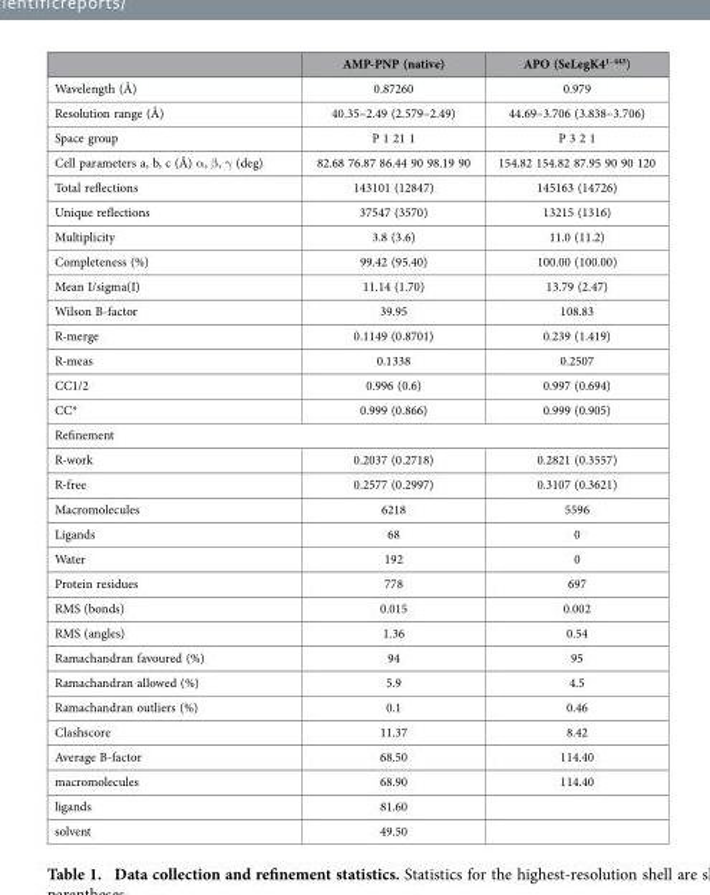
<table><thead><tr><td></td><td>AMP-PNP (native)</td><td>APO (SeLegK4<sup>1–445</sup>)</td></tr></thead><tbody><tr><td>Wavelength (Å)</td><td>0.87260</td><td>0.979</td></tr><tr><td>Resolution range (Å)</td><td>40.35–2.49 (2.579–2.49)</td><td>44.69–3.706 (3.838–3.706)</td></tr><tr><td>Space group</td><td>P 1 21 1</td><td>P 3 2 1</td></tr><tr><td>Cell parameters a, b, c (Å) α , β , γ (deg)</td><td>82.68 76.87 86.44 90 98.19 90</td><td>154.82 154.82 87.95 90 90 120</td></tr><tr><td>Total reflections</td><td>143101 (12847)</td><td>145163 (14726)</td></tr><tr><td>Unique reflections</td><td>37547 (3570)</td><td>13215 (1316)</td></tr><tr><td>Multiplicity</td><td>3.8 (3.6)</td><td>11.0 (11.2)</td></tr><tr><td>Completeness (%)</td><td>99.42 (95.40)</td><td>100.00 (100.00)</td></tr><tr><td>Mean I/sigma(I)</td><td>11.14 (1.70)</td><td>13.79 (2.47)</td></tr><tr><td>Wilson B-factor</td><td>39.95</td><td>108.83</td></tr><tr><td>R-merge</td><td>0.1149 (0.8701)</td><td>0.239 (1.419)</td></tr><tr><td>R-meas</td><td>0.1338</td><td>0.2507</td></tr><tr><td>CC1/2</td><td>0.996 (0.6)</td><td>0.997 (0.694)</td></tr><tr><td>CC*</td><td>0.999 (0.866)</td><td>0.999 (0.905)</td></tr><tr><td colspan="3">Refinement</td></tr><tr><td>R-work</td><td>0.2037 (0.2718)</td><td>0.2821 (0.3557)</td></tr><tr><td>R-free</td><td>0.2577 (0.2997)</td><td>0.3107 (0.3621)</td></tr><tr><td>Macromolecules</td><td>6218</td><td>5596</td></tr><tr><td>Ligands</td><td>68</td><td>0</td></tr><tr><td>Water</td><td>192</td><td>0</td></tr><tr><td>Protein residues</td><td>778</td><td>697</td></tr><tr><td>RMS (bonds)</td><td>0.015</td><td>0.002</td></tr><tr><td>RMS (angles)</td><td>1.36</td><td>0.54</td></tr><tr><td>Ramachandran favoured (%)</td><td>94</td><td>95</td></tr><tr><td>Ramachandran allowed (%)</td><td>5.9</td><td>4.5</td></tr><tr><td>Ramachandran outliers (%)</td><td>0.1</td><td>0.46</td></tr><tr><td>Clashscore</td><td>11.37</td><td>8.42</td></tr><tr><td>Average B-factor</td><td>68.50</td><td>114.40</td></tr><tr><td>macromolecules</td><td>68.90</td><td>114.40</td></tr><tr><td>ligands</td><td>81.60</td><td></td></tr><tr><td>solvent</td><td>49.50</td><td></td></tr></tbody></table>